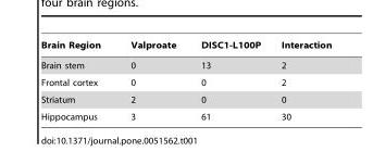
<table><thead><tr><td>Brain Region</td><td>Valproate</td><td>DISC1-L100P</td><td>Interaction</td></tr></thead><tbody><tr><td>Brain stem</td><td>0</td><td>13</td><td>2</td></tr><tr><td>Frontal cortex</td><td>0</td><td>0</td><td>2</td></tr><tr><td>Striatum</td><td>2</td><td>0</td><td>0</td></tr><tr><td>Hippocampus</td><td>3</td><td>61</td><td>30</td></tr></tbody></table>